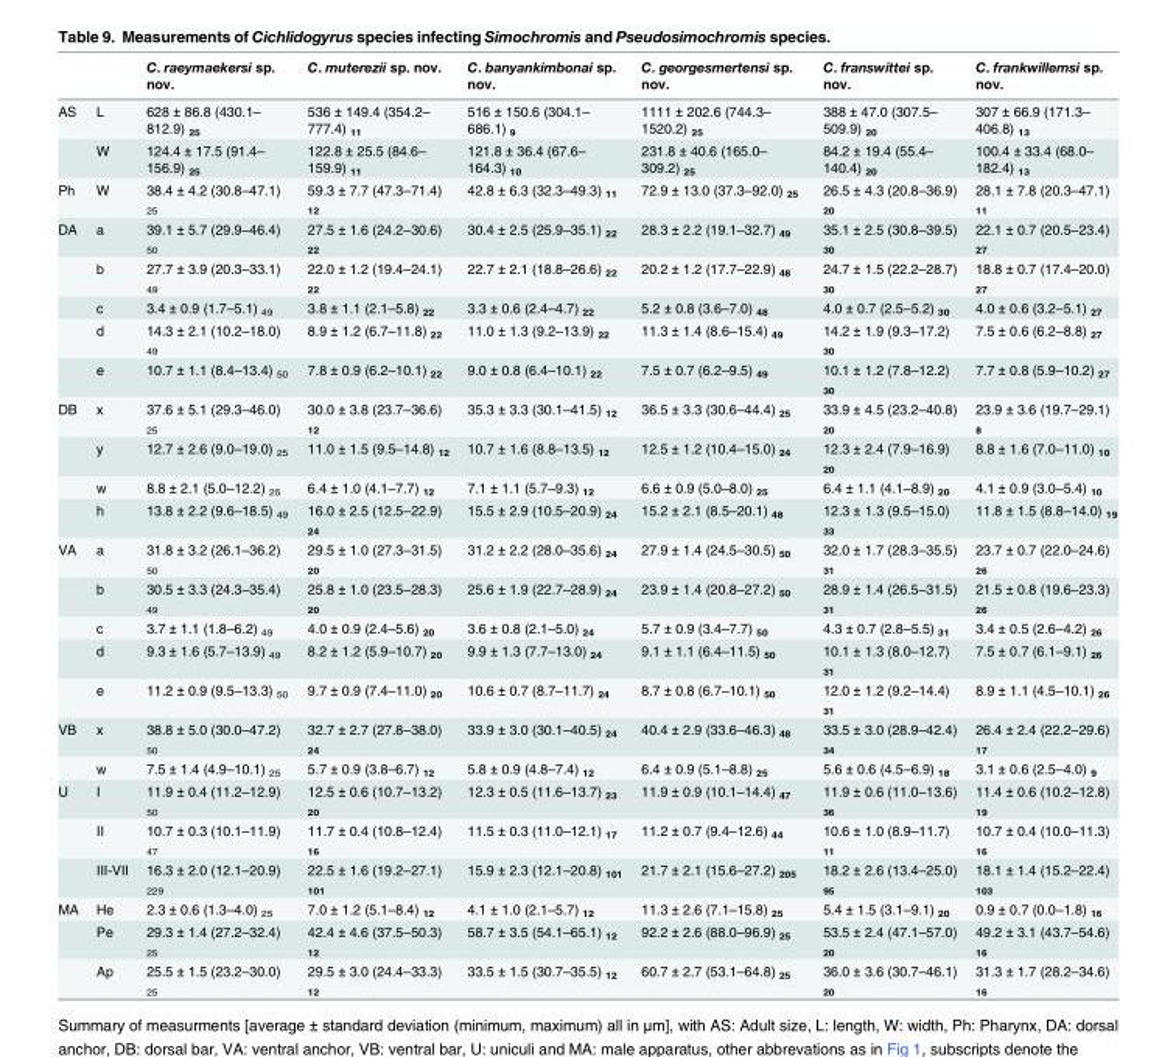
<table><thead><tr><td></td><td></td><td>C. raeymaekersi sp. nov.</td><td>C. muterezii sp. nov.</td><td>C. banyankimbonai sp. nov.</td><td>C. georgesmertensi sp. nov.</td><td>C. franswittei sp. nov.</td><td>C. frankwillemsi sp. nov.</td></tr></thead><tbody><tr><td rowspan="2">AS</td><td>L</td><td>628 ± 86.8 (430.1– 812.9) <sub>25</sub></td><td>536 ± 149.4 (354.2– 777.4) <sub>11</sub></td><td>516 ± 150.6 (304.1– 686.1) <sub>9</sub></td><td>1111 ± 202.6 (744.3– 1520.2) <sub>25</sub></td><td>388 ± 47.0 (307.5– 509.9) <sub>20</sub></td><td>307 ± 66.9 (171.3– 406.8) <sub>13</sub></td></tr><tr><td>W</td><td>124.4 ± 17.5 (91.4– 156.9) <sub>25</sub></td><td>122.8 ± 25.5 (84.6– 159.9) <sub>11</sub></td><td>121.8 ± 36.4 (67.6– 164.3) <sub>10</sub></td><td>231.8 ± 40.6 (165.0– 309.2) <sub>25</sub></td><td>84.2 ± 19.4 (55.4– 140.4) <sub>20</sub></td><td>100.4 ± 33.4 (68.0– 182.4) <sub>13</sub></td></tr><tr><td>Ph</td><td>W</td><td>38.4 ± 4.2 (30.8–47.1) <sub>25</sub></td><td>59.3 ± 7.7 (47.3–71.4) <sub>12</sub></td><td>42.8 ± 6.3 (32.3–49.3) <sub>11</sub></td><td>72.9 ± 13.0 (37.3–92.0) <sub>25</sub></td><td>26.5 ± 4.3 (20.8–36.9) <sub>20</sub></td><td>28.1 ± 7.8 (20.3–47.1) <sub>11</sub></td></tr><tr><td rowspan="5">DA</td><td>a</td><td>39.1 ± 5.7 (29.9–46.4) <sub>50</sub></td><td>27.5 ± 1.6 (24.2–30.6) <sub>22</sub></td><td>30.4 ± 2.5 (25.9–35.1) <sub>22</sub></td><td>28.3 ± 2.2 (19.1–32.7) <sub>49</sub></td><td>35.1 ± 2.5 (30.8–39.5) <sub>30</sub></td><td>22.1 ± 0.7 (20.5–23.4) <sub>27</sub></td></tr><tr><td>b</td><td>27.7 ± 3.9 (20.3–33.1) <sub>49</sub></td><td>22.0 ± 1.2 (19.4–24.1) <sub>22</sub></td><td>22.7 ± 2.1 (18.8–26.6) <sub>22</sub></td><td>20.2 ± 1.2 (17.7–22.9) <sub>48</sub></td><td>24.7 ± 1.5 (22.2–28.7) <sub>30</sub></td><td>18.8 ± 0.7 (17.4–20.0) <sub>27</sub></td></tr><tr><td>c</td><td>3.4 ± 0.9 (1.7–5.1) <sub>49</sub></td><td>3.8 ± 1.1 (2.1–5.8) <sub>22</sub></td><td>3.3 ± 0.6 (2.4–4.7) <sub>22</sub></td><td>5.2 ± 0.8 (3.6–7.0) <sub>48</sub></td><td>4.0 ± 0.7 (2.5–5.2) <sub>30</sub></td><td>4.0 ± 0.6 (3.2–5.1) <sub>27</sub></td></tr><tr><td>d</td><td>14.3 ± 2.1 (10.2–18.0) <sub>49</sub></td><td>8.9 ± 1.2 (6.7–11.8) <sub>22</sub></td><td>11.0 ± 1.3 (9.2–13.9) <sub>22</sub></td><td>11.3 ± 1.4 (8.6–15.4) <sub>49</sub></td><td>14.2 ± 1.9 (9.3–17.2) <sub>30</sub></td><td>7.5 ± 0.6 (6.2–8.8) <sub>27</sub></td></tr><tr><td>e</td><td>10.7 ± 1.1 (8.4–13.4) <sub>50</sub></td><td>7.8 ± 0.9 (6.2–10.1) <sub>22</sub></td><td>9.0 ± 0.8 (6.4–10.1) <sub>22</sub></td><td>7.5 ± 0.7 (6.2–9.5) <sub>49</sub></td><td>10.1 ± 1.2 (7.8–12.2) <sub>30</sub></td><td>7.7 ± 0.8 (5.9–10.2) <sub>27</sub></td></tr><tr><td rowspan="4">DB</td><td>x</td><td>37.6 ± 5.1 (29.3–46.0) <sub>25</sub></td><td>30.0 ± 3.8 (23.7–36.6) <sub>12</sub></td><td>35.3 ± 3.3 (30.1–41.5) <sub>12</sub></td><td>36.5 ± 3.3 (30.6–44.4) <sub>25</sub></td><td>33.9 ± 4.5 (23.2–40.8) <sub>20</sub></td><td>23.9 ± 3.6 (19.7–29.1) <sub>8</sub></td></tr><tr><td>y</td><td>12.7 ± 2.6 (9.0–19.0) <sub>25</sub></td><td>11.0 ± 1.5 (9.5–14.8) <sub>12</sub></td><td>10.7 ± 1.6 (8.8–13.5) <sub>12</sub></td><td>12.5 ± 1.2 (10.4–15.0) <sub>24</sub></td><td>12.3 ± 2.4 (7.9–16.9) <sub>20</sub></td><td>8.8 ± 1.6 (7.0–11.0) <sub>10</sub></td></tr><tr><td>w</td><td>8.8 ± 2.1 (5.0–12.2) <sub>25</sub></td><td>6.4 ± 1.0 (4.1–7.7) <sub>12</sub></td><td>7.1 ± 1.1 (5.7–9.3) <sub>12</sub></td><td>6.6 ± 0.9 (5.0–8.0) <sub>25</sub></td><td>6.4 ± 1.1 (4.1–8.9) <sub>20</sub></td><td>4.1 ± 0.9 (3.0–5.4) <sub>10</sub></td></tr><tr><td>h</td><td>13.8 ± 2.2 (9.6–18.5) <sub>49</sub></td><td>16.0 ± 2.5 (12.5–22.9) <sub>24</sub></td><td>15.5 ± 2.9 (10.5–20.9) <sub>24</sub></td><td>15.2 ± 2.1 (8.5–20.1) <sub>48</sub></td><td>12.3 ± 1.3 (9.5–15.0) <sub>33</sub></td><td>11.8 ± 1.5 (8.8–14.0) <sub>19</sub></td></tr><tr><td rowspan="5">VA</td><td>a</td><td>31.8 ± 3.2 (26.1–36.2) <sub>50</sub></td><td>29.5 ± 1.0 (27.3–31.5) <sub>20</sub></td><td>31.2 ± 2.2 (28.0–35.6) <sub>24</sub></td><td>27.9 ± 1.4 (24.5–30.5) <sub>50</sub></td><td>32.0 ± 1.7 (28.3–35.5) <sub>31</sub></td><td>23.7 ± 0.7 (22.0–24.6) <sub>26</sub></td></tr><tr><td>b</td><td>30.5 ± 3.3 (24.3–35.4) <sub>49</sub></td><td>25.8 ± 1.0 (23.5–28.3) <sub>20</sub></td><td>25.6 ± 1.9 (22.7–28.9) <sub>24</sub></td><td>23.9 ± 1.4 (20.8–27.2) <sub>50</sub></td><td>28.9 ± 1.4 (26.5–31.5) <sub>31</sub></td><td>21.5 ± 0.8 (19.6–23.3) <sub>26</sub></td></tr><tr><td>c</td><td>3.7 ± 1.1 (1.8–6.2) <sub>49</sub></td><td>4.0 ± 0.9 (2.4–5.6) <sub>20</sub></td><td>3.6 ± 0.8 (2.1–5.0) <sub>24</sub></td><td>5.7 ± 0.9 (3.4–7.7) <sub>50</sub></td><td>4.3 ± 0.7 (2.8–5.5) <sub>31</sub></td><td>3.4 ± 0.5 (2.6–4.2) <sub>26</sub></td></tr><tr><td>d</td><td>9.3 ± 1.6 (5.7–13.9) <sub>49</sub></td><td>8.2 ± 1.2 (5.9–10.7) <sub>20</sub></td><td>9.9 ± 1.3 (7.7–13.0) <sub>24</sub></td><td>9.1 ± 1.1 (6.4–11.5) <sub>50</sub></td><td>10.1 ± 1.3 (8.0–12.7) <sub>31</sub></td><td>7.5 ± 0.7 (6.1–9.1) <sub>26</sub></td></tr><tr><td>e</td><td>11.2 ± 0.9 (9.5–13.3) <sub>50</sub></td><td>9.7 ± 0.9 (7.4–11.0) <sub>20</sub></td><td>10.6 ± 0.7 (8.7–11.7) <sub>24</sub></td><td>8.7 ± 0.8 (6.7–10.1) <sub>50</sub></td><td>12.0 ± 1.2 (9.2–14.4) <sub>31</sub></td><td>8.9 ± 1.1 (4.5–10.1) <sub>26</sub></td></tr><tr><td rowspan="2">VB</td><td>x</td><td>38.8 ± 5.0 (30.0–47.2) <sub>50</sub></td><td>32.7 ± 2.7 (27.8–38.0) <sub>24</sub></td><td>33.9 ± 3.0 (30.1–40.5) <sub>24</sub></td><td>40.4 ± 2.9 (33.6–46.3) <sub>48</sub></td><td>33.5 ± 3.0 (28.9–42.4) <sub>34</sub></td><td>26.4 ± 2.4 (22.2–29.6) <sub>17</sub></td></tr><tr><td>w</td><td>7.5 ± 1.4 (4.9–10.1) <sub>25</sub></td><td>5.7 ± 0.9 (3.8–6.7) <sub>12</sub></td><td>5.8 ± 0.9 (4.8–7.4) <sub>12</sub></td><td>6.4 ± 0.9 (5.1–8.8) <sub>25</sub></td><td>5.6 ± 0.6 (4.5–6.9) <sub>18</sub></td><td>3.1 ± 0.6 (2.5–4.0) <sub>9</sub></td></tr><tr><td rowspan="3">U</td><td>I</td><td>11.9 ± 0.4 (11.2–12.9) <sub>50</sub></td><td>12.5 ± 0.6 (10.7–13.2) <sub>20</sub></td><td>12.3 ± 0.5 (11.6–13.7) <sub>23</sub></td><td>11.9 ± 0.9 (10.1–14.4) <sub>47</sub></td><td>11.9 ± 0.6 (11.0–13.6) <sub>36</sub></td><td>11.4 ± 0.6 (10.2–12.8) <sub>19</sub></td></tr><tr><td>II</td><td>10.7 ± 0.3 (10.1–11.9) <sub>47</sub></td><td>11.7 ± 0.4 (10.8–12.4) <sub>16</sub></td><td>11.5 ± 0.3 (11.0–12.1) <sub>17</sub></td><td>11.2 ± 0.7 (9.4–12.6) <sub>44</sub></td><td>10.6 ± 1.0 (8.9–11.7) <sub>11</sub></td><td>10.7 ± 0.4 (10.0–11.3) <sub>16</sub></td></tr><tr><td>III-VII</td><td>16.3 ± 2.0 (12.1–20.9) <sub>229</sub></td><td>22.5 ± 1.6 (19.2–27.1) <sub>101</sub></td><td>15.9 ± 2.3 (12.1–20.8) <sub>101</sub></td><td>21.7 ± 2.1 (15.6–27.2) <sub>205</sub></td><td>18.2 ± 2.6 (13.4–25.0) <sub>95</sub></td><td>18.1 ± 1.4 (15.2–22.4) <sub>103</sub></td></tr><tr><td rowspan="3">MA</td><td>He</td><td>2.3 ± 0.6 (1.3–4.0) <sub>25</sub></td><td>7.0 ± 1.2 (5.1–8.4) <sub>12</sub></td><td>4.1 ± 1.0 (2.1–5.7) <sub>12</sub></td><td>11.3 ± 2.6 (7.1–15.8) <sub>25</sub></td><td>5.4 ± 1.5 (3.1–9.1) <sub>20</sub></td><td>0.9 ± 0.7 (0.0–1.8) <sub>16</sub></td></tr><tr><td>Pe</td><td>29.3 ± 1.4 (27.2–32.4) <sub>25</sub></td><td>42.4 ± 4.6 (37.5–50.3) <sub>12</sub></td><td>58.7 ± 3.5 (54.1–65.1) <sub>12</sub></td><td>92.2 ± 2.6 (88.0–96.9) <sub>25</sub></td><td>53.5 ± 2.4 (47.1–57.0) <sub>20</sub></td><td>49.2 ± 3.1 (43.7–54.6) <sub>16</sub></td></tr><tr><td>Ap</td><td>25.5 ± 1.5 (23.2–30.0) <sub>25</sub></td><td>29.5 ± 3.0 (24.4–33.3) <sub>12</sub></td><td>33.5 ± 1.5 (30.7–35.5) <sub>12</sub></td><td>60.7 ± 2.7 (53.1–64.8) <sub>25</sub></td><td>36.0 ± 3.6 (30.7–46.1) <sub>20</sub></td><td>31.3 ± 1.7 (28.2–34.6) <sub>16</sub></td></tr></tbody></table>